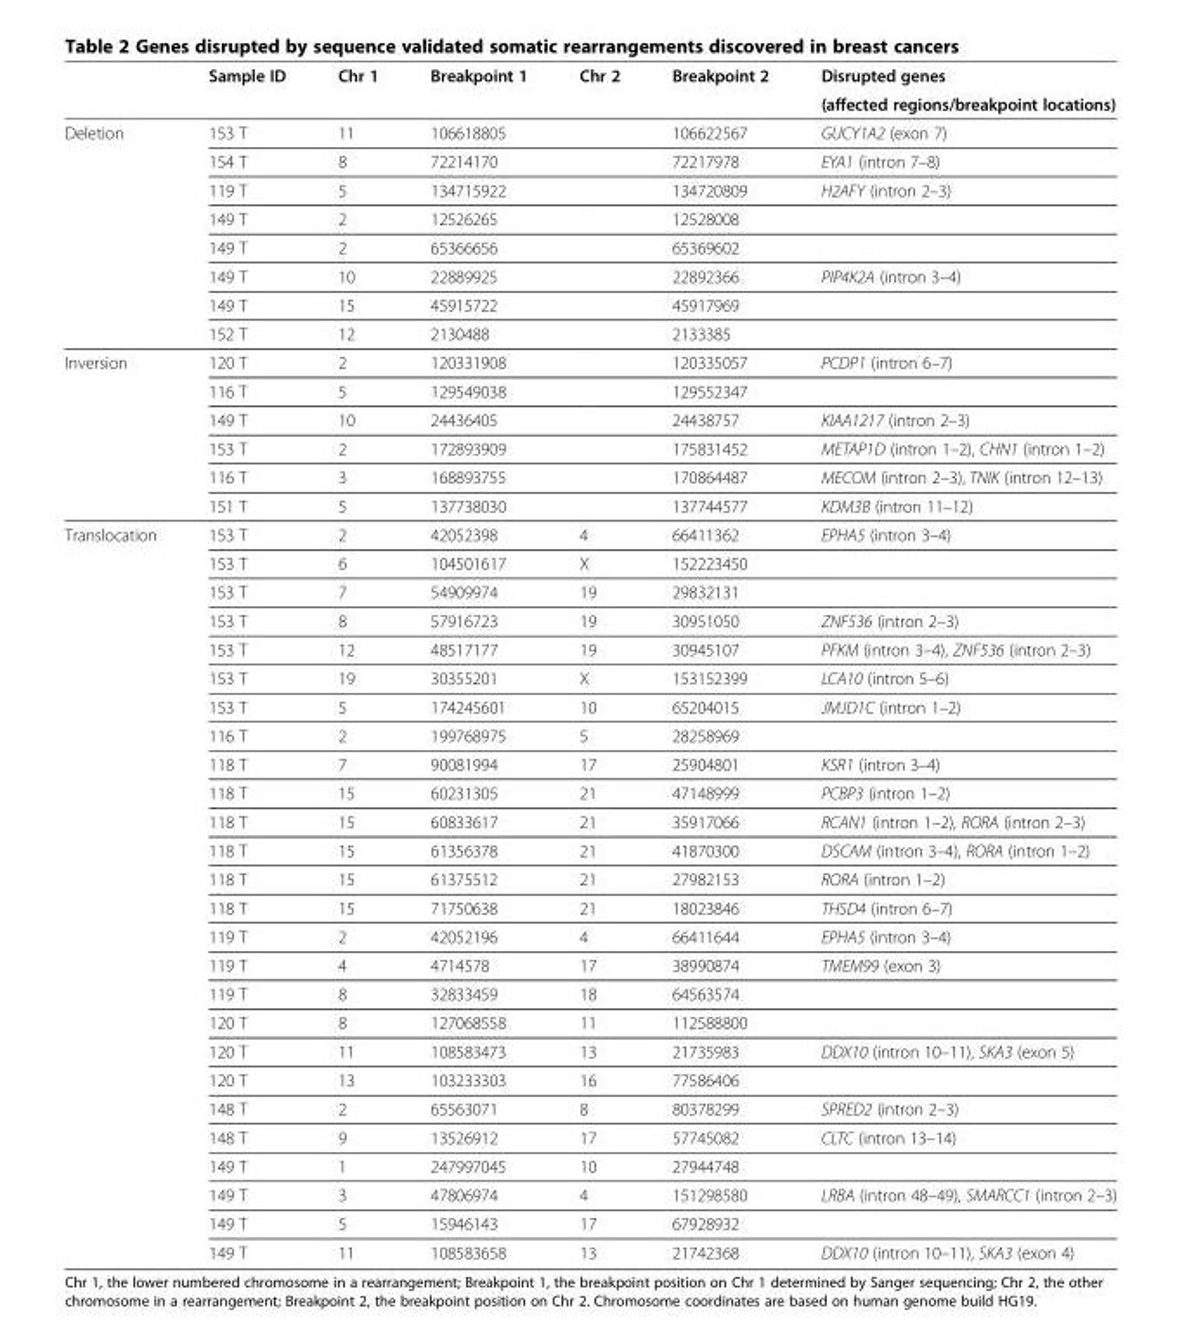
<table><thead><tr><td rowspan="2"></td><td rowspan="2">Sample ID</td><td rowspan="2">Chr 1</td><td rowspan="2">Breakpoint 1</td><td rowspan="2">Chr 2</td><td rowspan="2">Breakpoint 2</td><td rowspan="2">Disrupted genes (affected regions/breakpoint locations)</td></tr><tr></tr></thead><tbody><tr><td rowspan="8">Deletion</td><td>153 T</td><td>11</td><td>106618805</td><td></td><td>106622567</td><td>GUCY1A2 (exon 7)</td></tr><tr><td>154 T</td><td>8</td><td>72214170</td><td></td><td>72217978</td><td>EYA1 (intron 7–8)</td></tr><tr><td>119 T</td><td>5</td><td>134715922</td><td></td><td>134720809</td><td>H2AFY (intron 2–3)</td></tr><tr><td>149 T</td><td>2</td><td>12526265</td><td></td><td>12528008</td><td></td></tr><tr><td>149 T</td><td>2</td><td>65366656</td><td></td><td>65369602</td><td></td></tr><tr><td>149 T</td><td>10</td><td>22889925</td><td></td><td>22892366</td><td>PIP4K2A (intron 3–4)</td></tr><tr><td>149 T</td><td>15</td><td>45915722</td><td></td><td>45917969</td><td></td></tr><tr><td>152 T</td><td>12</td><td>2130488</td><td></td><td>2133385</td><td></td></tr><tr><td rowspan="6">Inversion</td><td>120 T</td><td>2</td><td>120331908</td><td></td><td>120335057</td><td>PCDP1 (intron 6–7)</td></tr><tr><td>116 T</td><td>5</td><td>129549038</td><td></td><td>129552347</td><td></td></tr><tr><td>149 T</td><td>10</td><td>24436405</td><td></td><td>24438757</td><td>KIAA1217 (intron 2–3)</td></tr><tr><td>153 T</td><td>2</td><td>172893909</td><td></td><td>175831452</td><td>METAP1D (intron 1–2), CHN1 (intron 1–2)</td></tr><tr><td>116 T</td><td>3</td><td>168893755</td><td></td><td>170864487</td><td>MECOM (intron 2–3), TNIK (intron 12–13)</td></tr><tr><td>151 T</td><td>5</td><td>137738030</td><td></td><td>137744577</td><td>KDM3B (intron 11–12)</td></tr><tr><td rowspan="26">Translocation</td><td>153 T</td><td>2</td><td>42052398</td><td>4</td><td>66411362</td><td>EPHA5 (intron 3–4)</td></tr><tr><td>153 T</td><td>6</td><td>104501617</td><td>X</td><td>152223450</td><td></td></tr><tr><td>153 T</td><td>7</td><td>54909974</td><td>19</td><td>29832131</td><td></td></tr><tr><td>153 T</td><td>8</td><td>57916723</td><td>19</td><td>30951050</td><td>ZNF536 (intron 2–3)</td></tr><tr><td>153 T</td><td>12</td><td>48517177</td><td>19</td><td>30945107</td><td>PFKM (intron 3–4), ZNF536 (intron 2–3)</td></tr><tr><td>153 T</td><td>19</td><td>30355201</td><td>X</td><td>153152399</td><td>LCA10 (intron 5–6)</td></tr><tr><td>153 T</td><td>5</td><td>174245601</td><td>10</td><td>65204015</td><td>JMJD1C (intron 1–2)</td></tr><tr><td>116 T</td><td>2</td><td>199768975</td><td>5</td><td>28258969</td><td></td></tr><tr><td>118 T</td><td>7</td><td>90081994</td><td>17</td><td>25904801</td><td>KSR1 (intron 3–4)</td></tr><tr><td>118 T</td><td>15</td><td>60231305</td><td>21</td><td>47148999</td><td>PCBP3 (intron 1–2)</td></tr><tr><td>118 T</td><td>15</td><td>60833617</td><td>21</td><td>35917066</td><td>RCAN1 (intron 1–2), RORA (intron 2–3)</td></tr><tr><td>118 T</td><td>15</td><td>61356378</td><td>21</td><td>41870300</td><td>DSCAM (intron 3–4), RORA (intron 1–2)</td></tr><tr><td>118 T</td><td>15</td><td>61375512</td><td>21</td><td>27982153</td><td>RORA (intron 1–2)</td></tr><tr><td>118 T</td><td>15</td><td>71750638</td><td>21</td><td>18023846</td><td>THSD4 (intron 6–7)</td></tr><tr><td>119 T</td><td>2</td><td>42052196</td><td>4</td><td>66411644</td><td>EPHA5 (intron 3–4)</td></tr><tr><td>119 T</td><td>4</td><td>4714578</td><td>17</td><td>38990874</td><td>TMEM99 (exon 3)</td></tr><tr><td>119 T</td><td>8</td><td>32833459</td><td>18</td><td>64563574</td><td></td></tr><tr><td>120 T</td><td>8</td><td>127068558</td><td>11</td><td>112588800</td><td></td></tr><tr><td>120 T</td><td>11</td><td>108583473</td><td>13</td><td>21735983</td><td>DDX10 (intron 10–11), SKA3 (exon 5)</td></tr><tr><td>120 T</td><td>13</td><td>103233303</td><td>16</td><td>77586406</td><td></td></tr><tr><td>148 T</td><td>2</td><td>65563071</td><td>8</td><td>80378299</td><td>SPRED2 (intron 2–3)</td></tr><tr><td>148 T</td><td>9</td><td>13526912</td><td>17</td><td>57745082</td><td>CLTC (intron 13–14)</td></tr><tr><td>149 T</td><td>1</td><td>247997045</td><td>10</td><td>27944748</td><td></td></tr><tr><td>149 T</td><td>3</td><td>47806974</td><td>4</td><td>151298580</td><td>LRBA (intron 48–49), SMARCC1 (intron 2–3)</td></tr><tr><td>149 T</td><td>5</td><td>15946143</td><td>17</td><td>67928932</td><td></td></tr><tr><td>149 T</td><td>11</td><td>108583658</td><td>13</td><td>21742368</td><td>DDX10 (intron 10–11), SKA3 (exon 4)</td></tr></tbody></table>